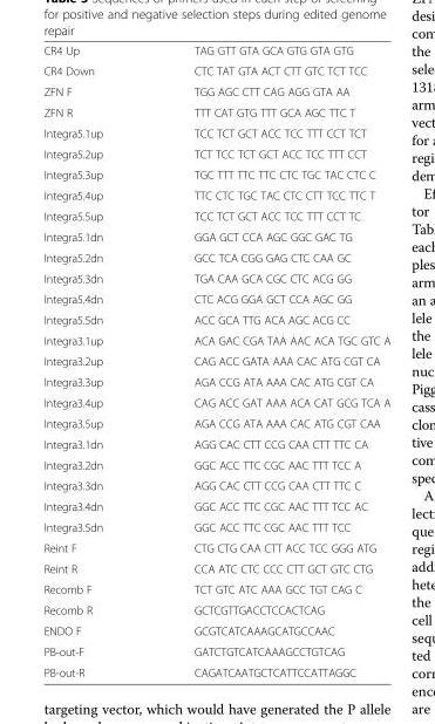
<table><tbody><tr><td>CR4 Up</td><td>TAG GTT GTA GCA GTG GTA GTG</td></tr><tr><td>CR4 Down</td><td>CTC TAT GTA ACT CTT GTC TCT TCC</td></tr><tr><td>ZFN F</td><td>TGG AGC CTT CAG AGG GTA AA</td></tr><tr><td>ZFN R</td><td>TTT CAT GTG TTT GCA AGC TTC T</td></tr><tr><td>Integra5.1up</td><td>TCC TCT GCT ACC TCC TTT CCT TCT</td></tr><tr><td>Integra5.2up</td><td>TCT TCC TCT GCT ACC TCC TTT CCT</td></tr><tr><td>Integra5.3up</td><td>TGC TTT TTC TTC CTC TGC TAC CTC C</td></tr><tr><td>Integra5.4up</td><td>TTC CTC TGC TAC CTC CTT TCC TTC T</td></tr><tr><td>Integra5.5up</td><td>TCC TCT GCT ACC TCC TTT CCT TC</td></tr><tr><td>Integra5.1dn</td><td>GGA GCT CCA AGC GGC GAC TG</td></tr><tr><td>Integra5.2dn</td><td>GCC TCA CGG GAG CTC CAA GC</td></tr><tr><td>Integra5.3dn</td><td>TGA CAA GCA CGC CTC ACG GG</td></tr><tr><td>Integra5.4dn</td><td>CTC ACG GGA GCT CCA AGC GG</td></tr><tr><td>Integra5.5dn</td><td>ACC GCA TTG ACA AGC ACG CC</td></tr><tr><td>Integra3.1up</td><td>ACA GAC CGA TAA AAC ACA TGC GTC A</td></tr><tr><td>Integra3.2up</td><td>CAG ACC GATA AAA CAC ATG CGT CA</td></tr><tr><td>Integra3.3up</td><td>AGA CCG ATA AAA CAC ATG CGT CA</td></tr><tr><td>Integra3.4up</td><td>CAG ACC GAT AAA ACA CAT GCG TCA A</td></tr><tr><td>Integra3.5up</td><td>AGA CCG ATA AAA CAC ATG CGT CAA</td></tr><tr><td>Integra3.1dn</td><td>AGG CAC CTT CCG CAA CTT TTC CA</td></tr><tr><td>Integra3.2dn</td><td>GGC ACC TTC CGC AAC TTT TCC A</td></tr><tr><td>Integra3.3dn</td><td>AGG CAC CTT CCG CAA CTT TTC C</td></tr><tr><td>Integra3.4dn</td><td>GGC ACC TTC CGC AAC TTT TCC AC</td></tr><tr><td>Integra3.5dn</td><td>GGC ACC TTC CGC AAC TTT TCC</td></tr><tr><td>Reint F</td><td>CTG CTG CAA CTT ACC TCC GGG ATG</td></tr><tr><td>Reint R</td><td>CCA ATC CTC CCC CTT GCT GTC CTG</td></tr><tr><td>Recomb F</td><td>TCT GTC ATC AAA GCC TGT CAG C</td></tr><tr><td>Recomb R</td><td>GCTCGTTGACCTCCACTCAG</td></tr><tr><td>ENDO F</td><td>GCGTCATCAAAGCATGCCAAC</td></tr><tr><td>PB-out-F</td><td>GATCTGTCATCAAAGCCTGTCAG</td></tr><tr><td>PB-out-R</td><td>CAGATCAATGCTCATTCCATTAGGC</td></tr></tbody></table>